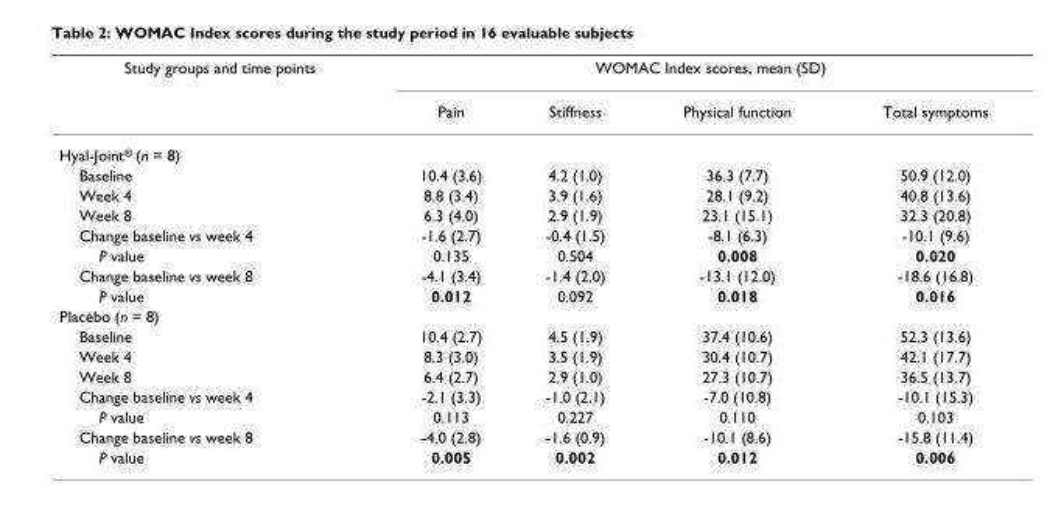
<table><thead><tr><td rowspan="2">Study groups and time points</td><td colspan="4">WOMAC Index scores, mean (SD)</td></tr><tr><td>Pain</td><td>Stiffness</td><td>Physical function</td><td>Total symptoms</td></tr></thead><tbody><tr><td colspan="5">Hyal-Joint<sup>®</sup> (n = 8)</td></tr><tr><td>Baseline</td><td>10.4 (3.6)</td><td>4.2 (1.0)</td><td>36.3 (7.7)</td><td>50.9 (12.0)</td></tr><tr><td>Week 4</td><td>8.8 (3.4)</td><td>3.9 (1.6)</td><td>28.1 (9.2)</td><td>40.8 (13.6)</td></tr><tr><td>Week 8</td><td>6.3 (4.0)</td><td>2.9 (1.9)</td><td>23.1 (15.1)</td><td>32.3 (20.8)</td></tr><tr><td>Change baseline vs week 4</td><td>-1.6 (2.7)</td><td>-0.4 (1.5)</td><td>-8.1 (6.3)</td><td>-10.1 (9.6)</td></tr><tr><td>P value</td><td>0.135</td><td>0.504</td><td>0.008</td><td>0.020</td></tr><tr><td>Change baseline vs week 8</td><td>-4.1 (3.4)</td><td>-1.4 (2.0)</td><td>-13.1 (12.0)</td><td>-18.6 (16.8)</td></tr><tr><td>P value</td><td>0.012</td><td>0.092</td><td>0.018</td><td>0.016</td></tr><tr><td colspan="5">Placebo (n = 8)</td></tr><tr><td>Baseline</td><td>10.4 (2.7)</td><td>4.5 (1.9)</td><td>37.4 (10.6)</td><td>52.3 (13.6)</td></tr><tr><td>Week 4</td><td>8.3 (3.0)</td><td>3.5 (1.9)</td><td>30.4 (10.7)</td><td>42.1 (17.7)</td></tr><tr><td>Week 8</td><td>6.4 (2.7)</td><td>2.9 (1.0)</td><td>27.3 (10.7)</td><td>36.5 (13.7)</td></tr><tr><td>Change baseline vs week 4</td><td>-2.1 (3.3)</td><td>-1.0 (2.1)</td><td>-7.0 (10.8)</td><td>-10.1 (15.3)</td></tr><tr><td>P value</td><td>0.113</td><td>0.227</td><td>0.110</td><td>0.103</td></tr><tr><td>Change baseline vs week 8</td><td>-4.0 (2.8)</td><td>-1.6 (0.9)</td><td>-10.1 (8.6)</td><td>-15.8 (11.4)</td></tr><tr><td>P value</td><td>0.005</td><td>0.002</td><td>0.012</td><td>0.006</td></tr></tbody></table>